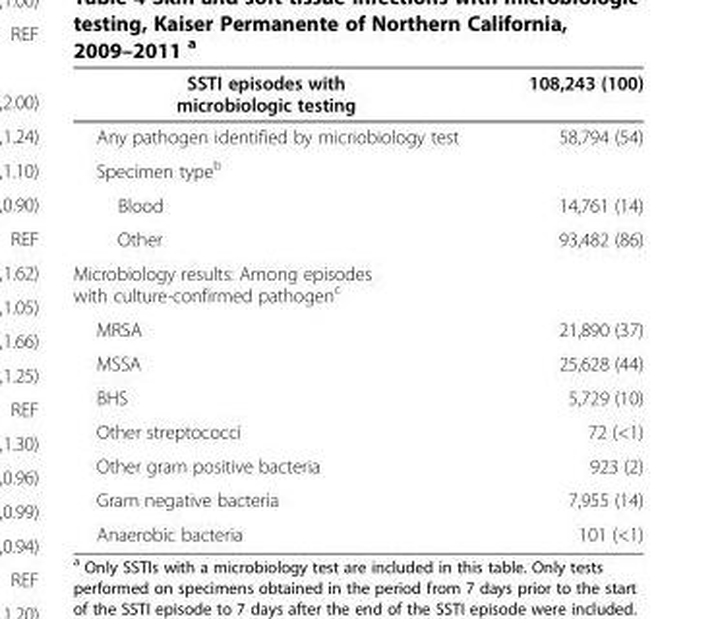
<table><thead><tr><td>SSTI episodes with microbiologic testing</td><td>108,243 (100)</td></tr></thead><tbody><tr><td>Any pathogen identified by micriobiology test</td><td>58,794 (54)</td></tr><tr><td colspan="2">Specimen type<sup>b</sup></td></tr><tr><td>Blood</td><td>14,761 (14)</td></tr><tr><td>Other</td><td>93,482 (86)</td></tr><tr><td colspan="2">Microbiology results: Among episodes with culture-confirmed pathogen<sup>c</sup></td></tr><tr><td>MRSA</td><td>21,890 (37)</td></tr><tr><td>MSSA</td><td>25,628 (44)</td></tr><tr><td>BHS</td><td>5,729 (10)</td></tr><tr><td>Other streptococci</td><td>72 (&lt;1)</td></tr><tr><td>Other gram positive bacteria</td><td>923 (2)</td></tr><tr><td>Gram negative bacteria</td><td>7,955 (14)</td></tr><tr><td>Anaerobic bacteria</td><td>101 (&lt;1)</td></tr></tbody></table>